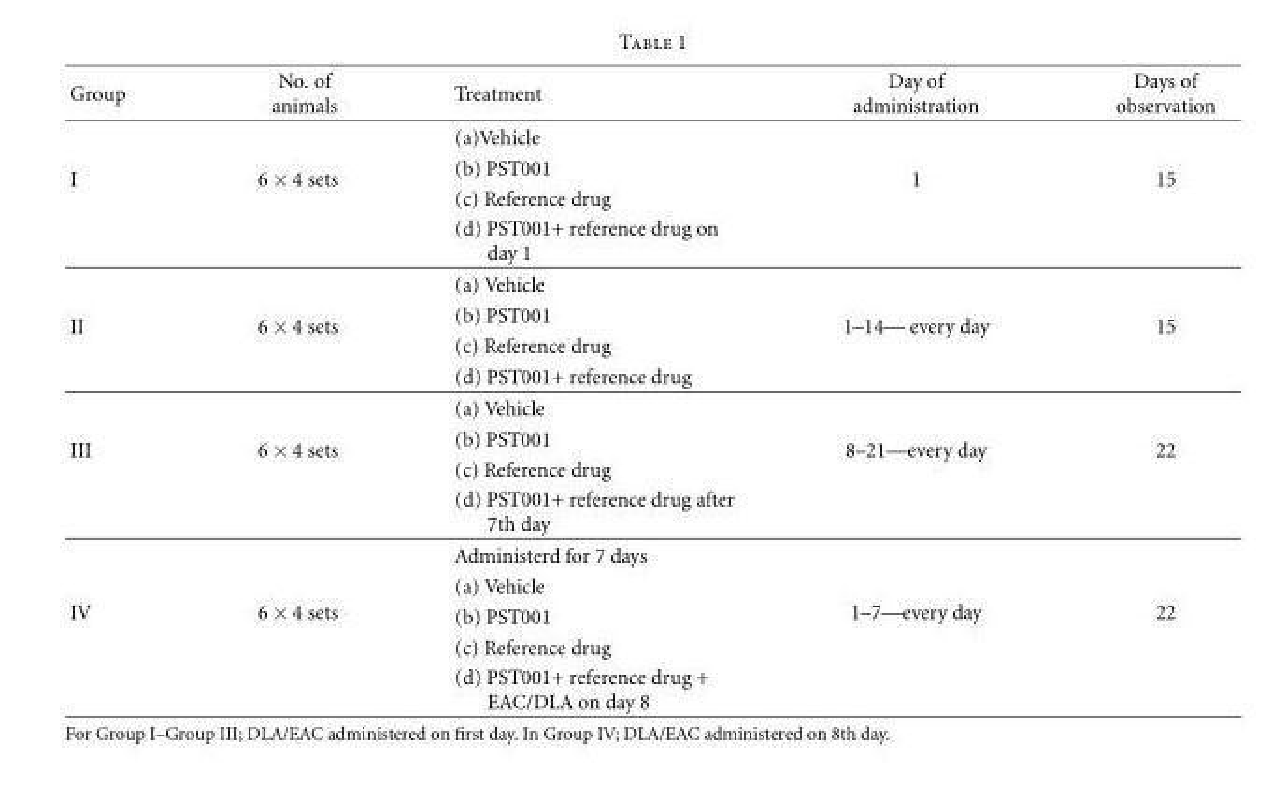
<table><thead><tr><td>Group</td><td>No. of animals</td><td>Treatment</td><td>Day of administration</td><td>Days of observation</td></tr></thead><tbody><tr><td rowspan="4">I</td><td rowspan="4">6 × 4 sets</td><td>(a)Vehicle</td><td rowspan="4">1</td><td rowspan="4">15</td></tr><tr><td>(b) PST001</td></tr><tr><td>(c) Reference drug</td></tr><tr><td>(d) PST001+ reference drug on day 1</td></tr><tr><td rowspan="4">II</td><td rowspan="4">6 × 4 sets</td><td>(a) Vehicle</td><td rowspan="4">1–14— every day</td><td rowspan="4">15</td></tr><tr><td>(b) PST001</td></tr><tr><td>(c) Reference drug</td></tr><tr><td>(d) PST001+ reference drug</td></tr><tr><td rowspan="4">III</td><td rowspan="4">6 × 4 sets</td><td>(a) Vehicle</td><td rowspan="4">8–21—every day</td><td rowspan="4">22</td></tr><tr><td>(b) PST001</td></tr><tr><td>(c) Reference drug</td></tr><tr><td>(d) PST001+ reference drug after 7th day</td></tr><tr><td rowspan="5">IV</td><td rowspan="5">6 × 4 sets</td><td>Administerd for 7 days</td><td rowspan="5">1–7—every day</td><td rowspan="5">22</td></tr><tr><td>(a) Vehicle</td></tr><tr><td>(b) PST001</td></tr><tr><td>(c) Reference drug</td></tr><tr><td>(d) PST001+ reference drug + EAC/DLA on day 8</td></tr></tbody></table>